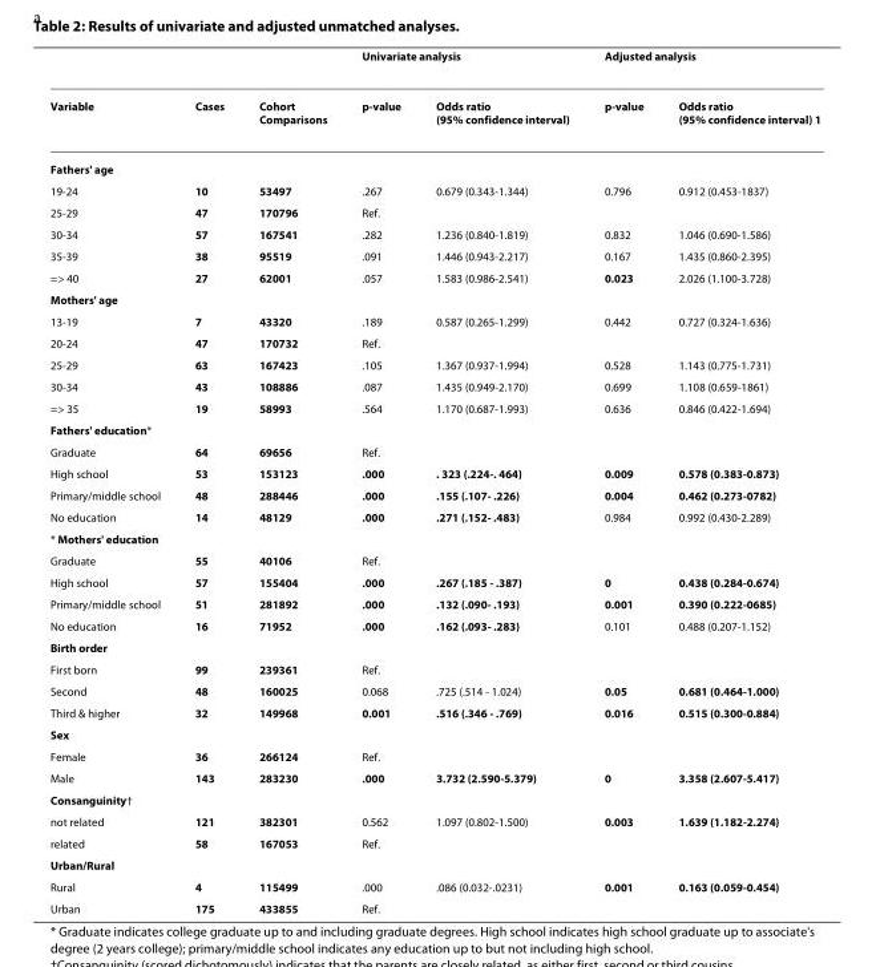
<table><thead><tr><td rowspan="2">Variable</td><td rowspan="2">Cases</td><td rowspan="2">Cohort Comparisons</td><td colspan="2">Univariate analysis</td><td colspan="2">Adjusted analysis</td></tr><tr><td>p-value</td><td>Odds ratio (95% confidence interval)</td><td>p-value</td><td>Odds ratio (95% confidence interval) 1</td></tr></thead><tbody><tr><td colspan="7">Fathers&#x27; age</td></tr><tr><td>19-24</td><td>10</td><td>53497</td><td>.267</td><td>0.679 (0.343-1.344)</td><td>0.796</td><td>0.912 (0.453-1837)</td></tr><tr><td>25-29</td><td>47</td><td>170796</td><td>Ref.</td><td></td><td></td><td></td></tr><tr><td>30-34</td><td>57</td><td>167541</td><td>.282</td><td>1.236 (0.840-1.819)</td><td>0.832</td><td>1.046 (0.690-1.586)</td></tr><tr><td>35-39</td><td>38</td><td>95519</td><td>.091</td><td>1.446 (0.943-2.217)</td><td>0.167</td><td>1.435 (0.860-2.395)</td></tr><tr><td>=&gt; 40</td><td>27</td><td>62001</td><td>.057</td><td>1.583 (0.986-2.541)</td><td>0.023</td><td>2.026 (1.100-3.728)</td></tr><tr><td colspan="7">Mothers&#x27; age</td></tr><tr><td>13-19</td><td>7</td><td>43320</td><td>.189</td><td>0.587 (0.265-1.299)</td><td>0.442</td><td>0.727 (0.324-1.636)</td></tr><tr><td>20-24</td><td>47</td><td>170732</td><td>Ref.</td><td></td><td></td><td></td></tr><tr><td>25-29</td><td>63</td><td>167423</td><td>.105</td><td>1.367 (0.937-1.994)</td><td>0.528</td><td>1.143 (0.775-1.731)</td></tr><tr><td>30-34</td><td>43</td><td>108886</td><td>.087</td><td>1.435 (0.949-2.170)</td><td>0.699</td><td>1.108 (0.659-1861)</td></tr><tr><td>=&gt; 35</td><td>19</td><td>58993</td><td>.564</td><td>1.170 (0.687-1.993)</td><td>0.636</td><td>0.846 (0.422-1.694)</td></tr><tr><td colspan="7">Fathers&#x27; education*</td></tr><tr><td>Graduate</td><td>64</td><td>69656</td><td>Ref.</td><td></td><td></td><td></td></tr><tr><td>High school</td><td>53</td><td>153123</td><td>.000</td><td>. 323 (.224-. 464)</td><td>0.009</td><td>0.578 (0.383-0.873)</td></tr><tr><td>Primary/middle school</td><td>48</td><td>288446</td><td>.000</td><td>.155 (.107- .226)</td><td>0.004</td><td>0.462 (0.273-0782)</td></tr><tr><td>No education</td><td>14</td><td>48129</td><td>.000</td><td>.271 (.152- .483)</td><td>0.984</td><td>0.992 (0.430-2.289)</td></tr><tr><td colspan="7">* Mothers&#x27; education</td></tr><tr><td>Graduate</td><td>55</td><td>40106</td><td>Ref.</td><td></td><td></td><td></td></tr><tr><td>High school</td><td>57</td><td>155404</td><td>.000</td><td>.267 (.185 - .387)</td><td>0</td><td>0.438 (0.284-0.674)</td></tr><tr><td>Primary/middle school</td><td>51</td><td>281892</td><td>.000</td><td>.132 (.090- .193)</td><td>0.001</td><td>0.390 (0.222-0685)</td></tr><tr><td>No education</td><td>16</td><td>71952</td><td>.000</td><td>.162 (.093- .283)</td><td>0.101</td><td>0.488 (0.207-1.152)</td></tr><tr><td colspan="7">Birth order</td></tr><tr><td>First born</td><td>99</td><td>239361</td><td>Ref.</td><td></td><td></td><td></td></tr><tr><td>Second</td><td>48</td><td>160025</td><td>0.068</td><td>.725 (.514 - 1.024)</td><td>0.05</td><td>0.681 (0.464-1.000)</td></tr><tr><td>Third &amp; higher</td><td>32</td><td>149968</td><td>0.001</td><td>.516 (.346 - .769)</td><td>0.016</td><td>0.515 (0.300-0.884)</td></tr><tr><td colspan="7">Sex</td></tr><tr><td>Female</td><td>36</td><td>266124</td><td>Ref.</td><td></td><td></td><td></td></tr><tr><td>Male</td><td>143</td><td>283230</td><td>.000</td><td>3.732 (2.590-5.379)</td><td>0</td><td>3.358 (2.607-5.417)</td></tr><tr><td colspan="7">Consanguinity†</td></tr><tr><td>not related</td><td>121</td><td>382301</td><td>0.562</td><td>1.097 (0.802-1.500)</td><td>0.003</td><td>1.639 (1.182-2.274)</td></tr><tr><td>related</td><td>58</td><td>167053</td><td>Ref.</td><td></td><td></td><td></td></tr><tr><td colspan="7">Urban/Rural</td></tr><tr><td>Rural</td><td>4</td><td>115499</td><td>.000</td><td>.086 (0.032-.0231)</td><td>0.001</td><td>0.163 (0.059-0.454)</td></tr><tr><td>Urban</td><td>175</td><td>433855</td><td>Ref.</td><td></td><td></td><td></td></tr></tbody></table>